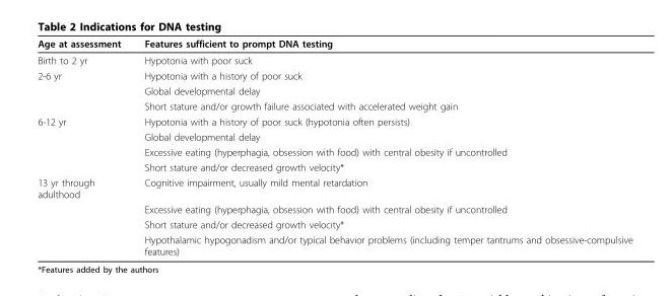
<table><thead><tr><td>Age at assessment</td><td>Features sufficient to prompt DNA testing</td></tr></thead><tbody><tr><td>Birth to 2 yr</td><td>Hypotonia with poor suck</td></tr><tr><td rowspan="3">2-6 yr</td><td>Hypotonia with a history of poor suck</td></tr><tr><td>Global developmental delay</td></tr><tr><td>Short stature and/or growth failure associated with accelerated weight gain</td></tr><tr><td rowspan="4">6-12 yr</td><td>Hypotonia with a history of poor suck (hypotonia often persists)</td></tr><tr><td>Global developmental delay</td></tr><tr><td>Excessive eating (hyperphagia, obsession with food) with central obesity if uncontrolled</td></tr><tr><td>Short stature and/or decreased growth velocity*</td></tr><tr><td rowspan="4">13 yr through adulthood</td><td>Cognitive impairment, usually mild mental retardation</td></tr><tr><td>Excessive eating (hyperphagia, obsession with food) with central obesity if uncontrolled</td></tr><tr><td>Short stature and/or decreased growth velocity*</td></tr><tr><td>Hypothalamic hypogonadism and/or typical behavior problems (including temper tantrums and obsessive-compulsive features)</td></tr></tbody></table>